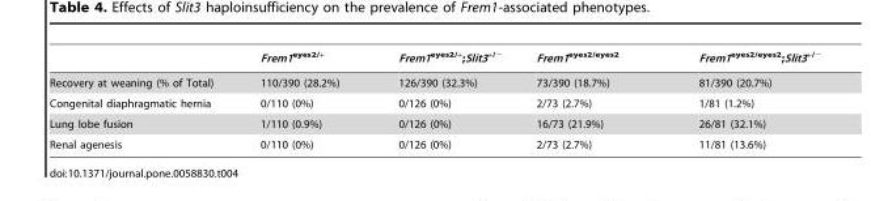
<table><thead><tr><td></td><td>Frem1<sup>eyes2/+</sup></td><td>Frem1<sup>eyes2/+</sup>;Slit3<sup>+/−</sup></td><td>Frem1<sup>eyes2/eyes2</sup></td><td>Frem1<sup>eyes2/eyes2</sup>;Slit3<sup>+/−</sup></td></tr></thead><tbody><tr><td>Recovery at weaning (% of Total)</td><td>110/390 (28.2%)</td><td>126/390 (32.3%)</td><td>73/390 (18.7%)</td><td>81/390 (20.7%)</td></tr><tr><td>Congenital diaphragmatic hernia</td><td>0/110 (0%)</td><td>0/126 (0%)</td><td>2/73 (2.7%)</td><td>1/81 (1.2%)</td></tr><tr><td>Lung lobe fusion</td><td>1/110 (0.9%)</td><td>0/126 (0%)</td><td>16/73 (21.9%)</td><td>26/81 (32.1%)</td></tr><tr><td>Renal agenesis</td><td>0/110 (0%)</td><td>0/126 (0%)</td><td>2/73 (2.7%)</td><td>11/81 (13.6%)</td></tr></tbody></table>